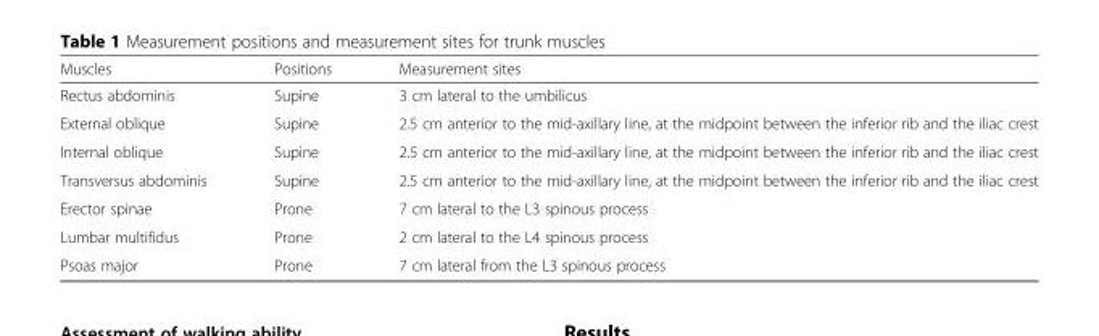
<table><thead><tr><td>Muscles</td><td>Positions</td><td>Measurement sites</td></tr></thead><tbody><tr><td>Rectus abdominis</td><td>Supine</td><td>3 cm lateral to the umbilicus</td></tr><tr><td>External oblique</td><td>Supine</td><td>2.5 cm anterior to the mid-axillary line, at the midpoint between the inferior rib and the iliac crest</td></tr><tr><td>Internal oblique</td><td>Supine</td><td>2.5 cm anterior to the mid-axillary line, at the midpoint between the inferior rib and the iliac crest</td></tr><tr><td>Transversus abdominis</td><td>Supine</td><td>2.5 cm anterior to the mid-axillary line, at the midpoint between the inferior rib and the iliac crest</td></tr><tr><td>Erector spinae</td><td>Prone</td><td>7 cm lateral to the L3 spinous process</td></tr><tr><td>Lumbar multifidus</td><td>Prone</td><td>2 cm lateral to the L4 spinous process</td></tr><tr><td>Psoas major</td><td>Prone</td><td>7 cm lateral from the L3 spinous process</td></tr></tbody></table>